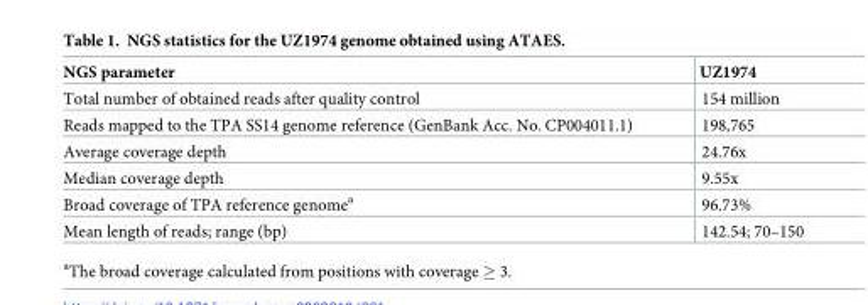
<table><thead><tr><td>NGS parameter</td><td>UZ1974</td></tr></thead><tbody><tr><td>Total number of obtained reads after quality control</td><td>154 million</td></tr><tr><td>Reads mapped to the TPA SS14 genome reference (GenBank Acc. No. CP004011.1)</td><td>198,765</td></tr><tr><td>Average coverage depth</td><td>24.76x</td></tr><tr><td>Median coverage depth</td><td>9.55x</td></tr><tr><td>Broad coverage of TPA reference genome<sup>a</sup></td><td>96.73%</td></tr><tr><td>Mean length of reads; range (bp)</td><td>142.54; 70–150</td></tr></tbody></table>